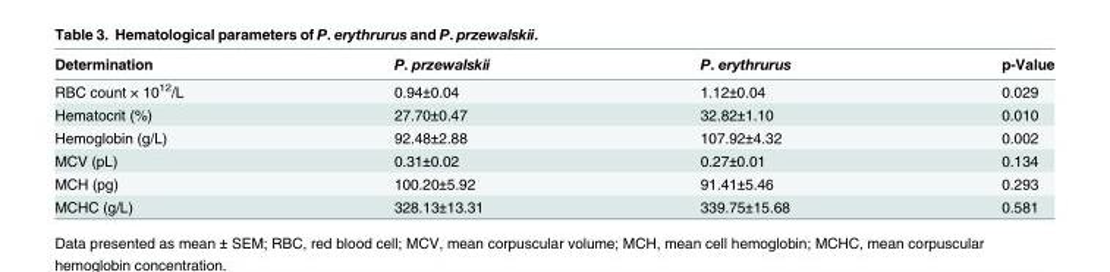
<table><thead><tr><td>Determination</td><td>P. przewalskii</td><td>P. erythrurus</td><td>p-Value</td></tr></thead><tbody><tr><td>RBC count × 10<sup>12</sup>/L</td><td>0.94±0.04</td><td>1.12±0.04</td><td>0.029</td></tr><tr><td>Hematocrit (%)</td><td>27.70±0.47</td><td>32.82±1.10</td><td>0.010</td></tr><tr><td>Hemoglobin (g/L)</td><td>92.48±2.88</td><td>107.92±4.32</td><td>0.002</td></tr><tr><td>MCV (pL)</td><td>0.31±0.02</td><td>0.27±0.01</td><td>0.134</td></tr><tr><td>MCH (pg)</td><td>100.20±5.92</td><td>91.41±5.46</td><td>0.293</td></tr><tr><td>MCHC (g/L)</td><td>328.13±13.31</td><td>339.75±15.68</td><td>0.581</td></tr></tbody></table>